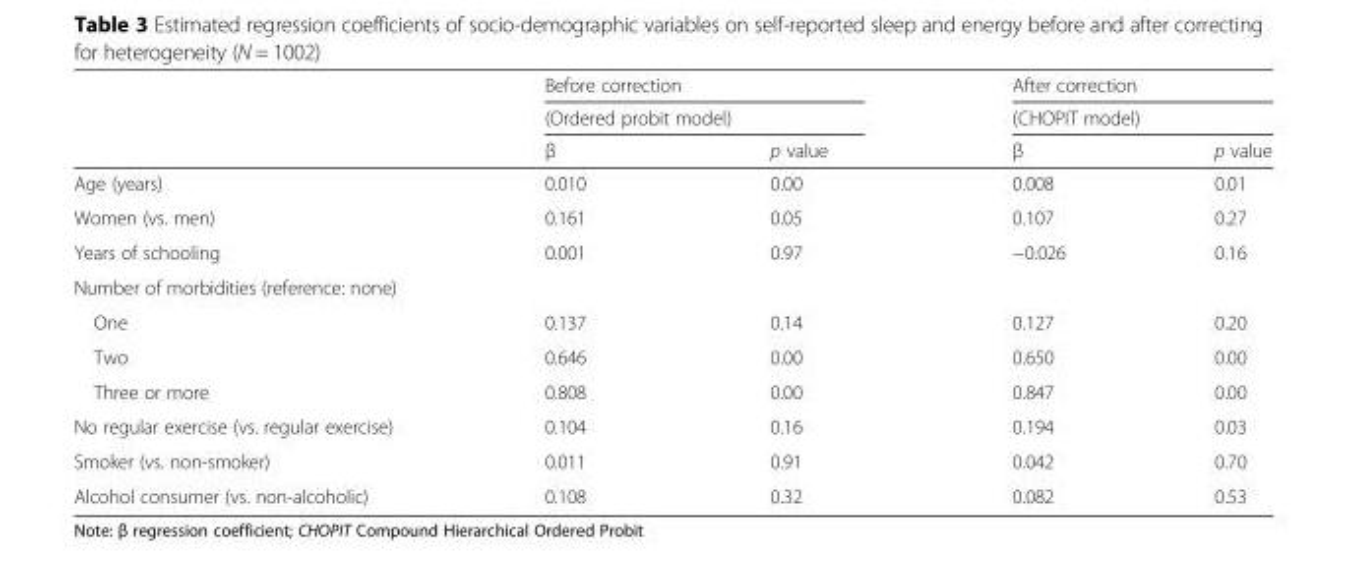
<table><thead><tr><td rowspan="3"></td><td rowspan="2" colspan="2">Before correction (Ordered probit model)</td><td rowspan="2" colspan="2">After correction (CHOPIT model)</td></tr><tr></tr><tr><td>β</td><td>p value</td><td>β</td><td>p value</td></tr></thead><tbody><tr><td>Age (years)</td><td>0.010</td><td>0.00</td><td>0.008</td><td>0.01</td></tr><tr><td>Women (vs. men)</td><td>0.161</td><td>0.05</td><td>0.107</td><td>0.27</td></tr><tr><td>Years of schooling</td><td>0.001</td><td>0.97</td><td>−0.026</td><td>0.16</td></tr><tr><td colspan="5">Number of morbidities (reference: none)</td></tr><tr><td>One</td><td>0.137</td><td>0.14</td><td>0.127</td><td>0.20</td></tr><tr><td>Two</td><td>0.646</td><td>0.00</td><td>0.650</td><td>0.00</td></tr><tr><td>Three or more</td><td>0.808</td><td>0.00</td><td>0.847</td><td>0.00</td></tr><tr><td>No regular exercise (vs. regular exercise)</td><td>0.104</td><td>0.16</td><td>0.194</td><td>0.03</td></tr><tr><td>Smoker (vs. non-smoker)</td><td>0.011</td><td>0.91</td><td>0.042</td><td>0.70</td></tr><tr><td>Alcohol consumer (vs. non-alcoholic)</td><td>0.108</td><td>0.32</td><td>0.082</td><td>0.53</td></tr></tbody></table>